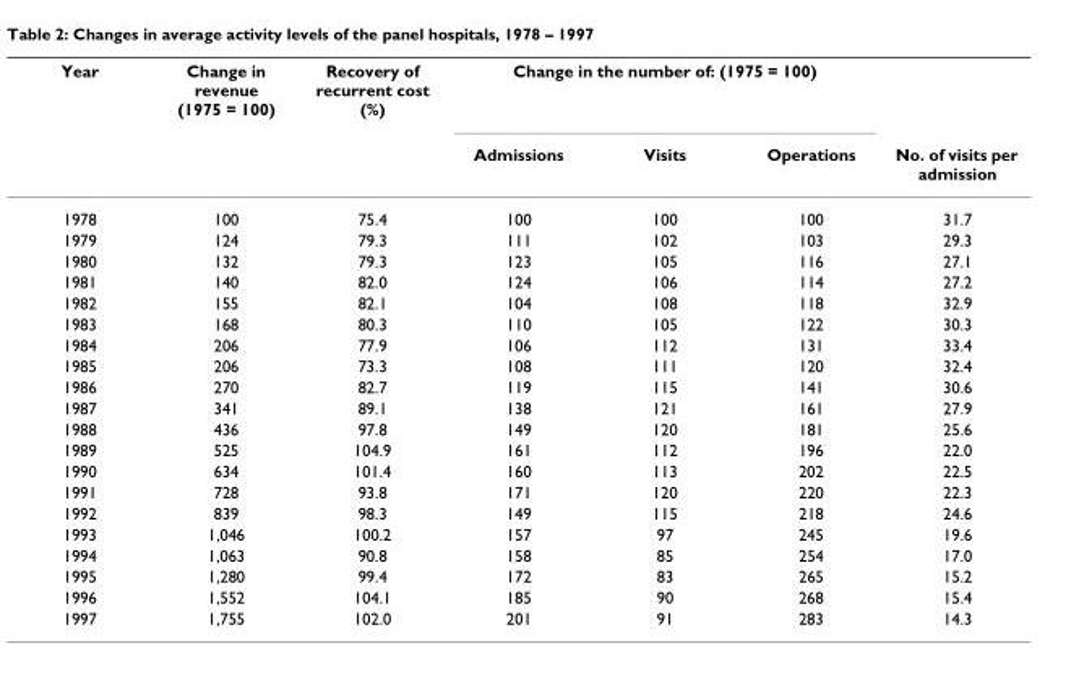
<table><thead><tr><td rowspan="2">Year</td><td rowspan="2">Change in revenue (1975 = 100)</td><td rowspan="2">Recovery of recurrent cost (%)</td><td colspan="3">Change in the number of: (1975 = 100)</td><td rowspan="2">No. of visits per admission</td></tr><tr><td>Admissions</td><td>Visits</td><td>Operations</td></tr></thead><tbody><tr><td>1978</td><td>100</td><td>75.4</td><td>100</td><td>100</td><td>100</td><td>31.7</td></tr><tr><td>1979</td><td>124</td><td>79.3</td><td>111</td><td>102</td><td>103</td><td>29.3</td></tr><tr><td>1980</td><td>132</td><td>79.3</td><td>123</td><td>105</td><td>116</td><td>27.1</td></tr><tr><td>1981</td><td>140</td><td>82.0</td><td>124</td><td>106</td><td>114</td><td>27.2</td></tr><tr><td>1982</td><td>155</td><td>82.1</td><td>104</td><td>108</td><td>118</td><td>32.9</td></tr><tr><td>1983</td><td>168</td><td>80.3</td><td>110</td><td>105</td><td>122</td><td>30.3</td></tr><tr><td>1984</td><td>206</td><td>77.9</td><td>106</td><td>112</td><td>131</td><td>33.4</td></tr><tr><td>1985</td><td>206</td><td>73.3</td><td>108</td><td>111</td><td>120</td><td>32.4</td></tr><tr><td>1986</td><td>270</td><td>82.7</td><td>119</td><td>115</td><td>141</td><td>30.6</td></tr><tr><td>1987</td><td>341</td><td>89.1</td><td>138</td><td>121</td><td>161</td><td>27.9</td></tr><tr><td>1988</td><td>436</td><td>97.8</td><td>149</td><td>120</td><td>181</td><td>25.6</td></tr><tr><td>1989</td><td>525</td><td>104.9</td><td>161</td><td>112</td><td>196</td><td>22.0</td></tr><tr><td>1990</td><td>634</td><td>101.4</td><td>160</td><td>113</td><td>202</td><td>22.5</td></tr><tr><td>1991</td><td>728</td><td>93.8</td><td>171</td><td>120</td><td>220</td><td>22.3</td></tr><tr><td>1992</td><td>839</td><td>98.3</td><td>149</td><td>115</td><td>218</td><td>24.6</td></tr><tr><td>1993</td><td>1,046</td><td>100.2</td><td>157</td><td>97</td><td>245</td><td>19.6</td></tr><tr><td>1994</td><td>1,063</td><td>90.8</td><td>158</td><td>85</td><td>254</td><td>17.0</td></tr><tr><td>1995</td><td>1,280</td><td>99.4</td><td>172</td><td>83</td><td>265</td><td>15.2</td></tr><tr><td>1996</td><td>1,552</td><td>104.1</td><td>185</td><td>90</td><td>268</td><td>15.4</td></tr><tr><td>1997</td><td>1,755</td><td>102.0</td><td>201</td><td>91</td><td>283</td><td>14.3</td></tr></tbody></table>